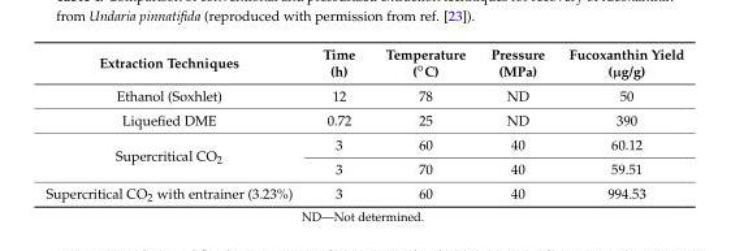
<table><thead><tr><td>Extraction Techniques</td><td>Time (h)</td><td>Temperature (◦C)</td><td>Pressure (MPa)</td><td>Fucoxanthin Yield (µg/g)</td></tr></thead><tbody><tr><td>Ethanol (Soxhlet)</td><td>12</td><td>78</td><td>ND</td><td>50</td></tr><tr><td>Liquefied DME</td><td>0.72</td><td>25</td><td>ND</td><td>390</td></tr><tr><td rowspan="2">Supercritical CO<sub>2</sub></td><td>3</td><td>60</td><td>40</td><td>60.12</td></tr><tr><td>3</td><td>70</td><td>40</td><td>59.51</td></tr><tr><td>Supercritical CO<sub>2</sub> with entrainer (3.23%)</td><td>3</td><td>60</td><td>40</td><td>994.53</td></tr></tbody></table>